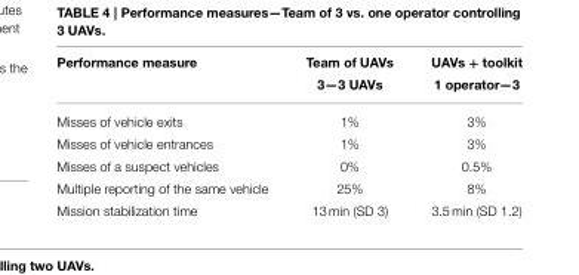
<table><thead><tr><td>Performance measure</td><td>Team of UAVs 3—3 UAVs</td><td>UAVs + toolkit 1 operator—3</td></tr></thead><tbody><tr><td>Misses of vehicle exits</td><td>1%</td><td>3%</td></tr><tr><td>Misses of vehicle entrances</td><td>1%</td><td>3%</td></tr><tr><td>Misses of a suspect vehicles</td><td>0%</td><td>0.5%</td></tr><tr><td>Multiple reporting of the same vehicle</td><td>25%</td><td>8%</td></tr><tr><td>Mission stabilization time</td><td>13 min (SD 3)</td><td>3.5 min (SD 1.2)</td></tr></tbody></table>